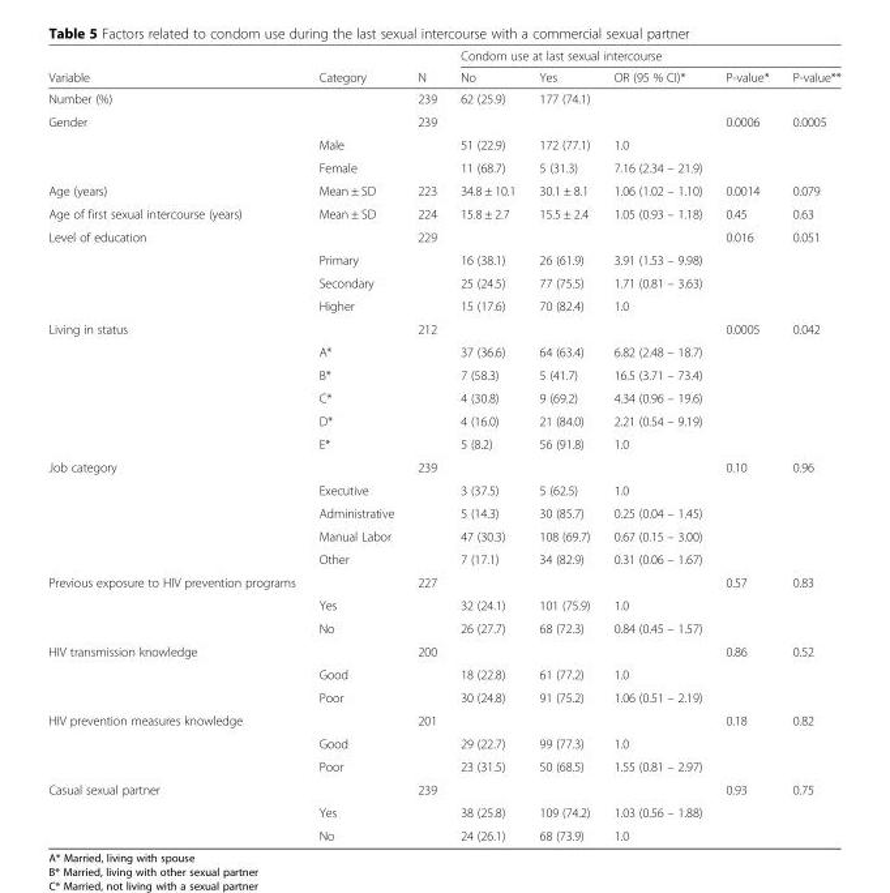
<table><thead><tr><td rowspan="2">Variable</td><td rowspan="2">Category</td><td rowspan="2">N</td><td colspan="5">Condom use at last sexual intercourse</td></tr><tr><td>No</td><td>Yes</td><td>OR (95 % CI)*</td><td>P-value*</td><td>P-value**</td></tr></thead><tbody><tr><td>Number (%)</td><td></td><td>239</td><td>62 (25.9)</td><td>177 (74.1)</td><td></td><td></td><td></td></tr><tr><td rowspan="3">Gender</td><td></td><td>239</td><td></td><td></td><td></td><td>0.0006</td><td>0.0005</td></tr><tr><td>Male</td><td></td><td>51 (22.9)</td><td>172 (77.1)</td><td>1.0</td><td></td><td></td></tr><tr><td>Female</td><td></td><td>11 (68.7)</td><td>5 (31.3)</td><td>7.16 (2.34 – 21.9)</td><td></td><td></td></tr><tr><td>Age (years)</td><td>Mean ± SD</td><td>223</td><td>34.8 ± 10.1</td><td>30.1 ± 8.1</td><td>1.06 (1.02 – 1.10)</td><td>0.0014</td><td>0.079</td></tr><tr><td>Age of first sexual intercourse (years)</td><td>Mean ± SD</td><td>224</td><td>15.8 ± 2.7</td><td>15.5 ± 2.4</td><td>1.05 (0.93 – 1.18)</td><td>0.45</td><td>0.63</td></tr><tr><td rowspan="4">Level of education</td><td></td><td>229</td><td></td><td></td><td></td><td>0.016</td><td>0.051</td></tr><tr><td>Primary</td><td></td><td>16 (38.1)</td><td>26 (61.9)</td><td>3.91 (1.53 – 9.98)</td><td></td><td></td></tr><tr><td>Secondary</td><td></td><td>25 (24.5)</td><td>77 (75.5)</td><td>1.71 (0.81 – 3.63)</td><td></td><td></td></tr><tr><td>Higher</td><td></td><td>15 (17.6)</td><td>70 (82.4)</td><td>1.0</td><td></td><td></td></tr><tr><td rowspan="6">Living in status</td><td></td><td>212</td><td></td><td></td><td></td><td>0.0005</td><td>0.042</td></tr><tr><td>A*</td><td></td><td>37 (36.6)</td><td>64 (63.4)</td><td>6.82 (2.48 – 18.7)</td><td></td><td></td></tr><tr><td>B*</td><td></td><td>7 (58.3)</td><td>5 (41.7)</td><td>16.5 (3.71 – 73.4)</td><td></td><td></td></tr><tr><td>C*</td><td></td><td>4 (30.8)</td><td>9 (69.2)</td><td>4.34 (0.96 – 19.6)</td><td></td><td></td></tr><tr><td>D*</td><td></td><td>4 (16.0)</td><td>21 (84.0)</td><td>2.21 (0.54 – 9.19)</td><td></td><td></td></tr><tr><td>E*</td><td></td><td>5 (8.2)</td><td>56 (91.8)</td><td>1.0</td><td></td><td></td></tr><tr><td rowspan="5">Job category</td><td></td><td>239</td><td></td><td></td><td></td><td>0.10</td><td>0.96</td></tr><tr><td>Executive</td><td></td><td>3 (37.5)</td><td>5 (62.5)</td><td>1.0</td><td></td><td></td></tr><tr><td>Administrative</td><td></td><td>5 (14.3)</td><td>30 (85.7)</td><td>0.25 (0.04 – 1.45)</td><td></td><td></td></tr><tr><td>Manual Labor</td><td></td><td>47 (30.3)</td><td>108 (69.7)</td><td>0.67 (0.15 – 3.00)</td><td></td><td></td></tr><tr><td>Other</td><td></td><td>7 (17.1)</td><td>34 (82.9)</td><td>0.31 (0.06 – 1.67)</td><td></td><td></td></tr><tr><td rowspan="3">Previous exposure to HIV prevention programs</td><td></td><td>227</td><td></td><td></td><td></td><td>0.57</td><td>0.83</td></tr><tr><td>Yes</td><td></td><td>32 (24.1)</td><td>101 (75.9)</td><td>1.0</td><td></td><td></td></tr><tr><td>No</td><td></td><td>26 (27.7)</td><td>68 (72.3)</td><td>0.84 (0.45 – 1.57)</td><td></td><td></td></tr><tr><td rowspan="3">HIV transmission knowledge</td><td></td><td>200</td><td></td><td></td><td></td><td>0.86</td><td>0.52</td></tr><tr><td>Good</td><td></td><td>18 (22.8)</td><td>61 (77.2)</td><td>1.0</td><td></td><td></td></tr><tr><td>Poor</td><td></td><td>30 (24.8)</td><td>91 (75.2)</td><td>1.06 (0.51 – 2.19)</td><td></td><td></td></tr><tr><td rowspan="3">HIV prevention measures knowledge</td><td></td><td>201</td><td></td><td></td><td></td><td>0.18</td><td>0.82</td></tr><tr><td>Good</td><td></td><td>29 (22.7)</td><td>99 (77.3)</td><td>1.0</td><td></td><td></td></tr><tr><td>Poor</td><td></td><td>23 (31.5)</td><td>50 (68.5)</td><td>1.55 (0.81 – 2.97)</td><td></td><td></td></tr><tr><td rowspan="3">Casual sexual partner</td><td></td><td>239</td><td></td><td></td><td></td><td>0.93</td><td>0.75</td></tr><tr><td>Yes</td><td></td><td>38 (25.8)</td><td>109 (74.2)</td><td>1.03 (0.56 – 1.88)</td><td></td><td></td></tr><tr><td>No</td><td></td><td>24 (26.1)</td><td>68 (73.9)</td><td>1.0</td><td></td><td></td></tr></tbody></table>